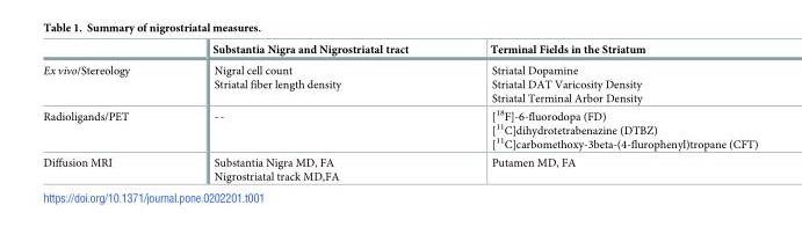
<table><thead><tr><td></td><td>Substantia Nigra and Nigrostriatal tract</td><td>Terminal Fields in the Striatum</td></tr></thead><tbody><tr><td>Ex vivo/Stereology</td><td>Nigral cell count Striatal fiber length density</td><td>Striatal Dopamine Striatal DAT Varicosity Density Striatal Terminal Arbor Density</td></tr><tr><td>Radioligands/PET</td><td>--</td><td>[<sup>18</sup>F]-6-fluorodopa (FD) [<sup>11</sup>C]dihydrotetrabenazine (DTBZ) [<sup>11</sup>C]carbomethoxy-3beta-(4-flurophenyl)tropane (CFT)</td></tr><tr><td>Diffusion MRI</td><td>Substantia Nigra MD, FA Nigrostriatal track MD,FA</td><td>Putamen MD, FA</td></tr></tbody></table>